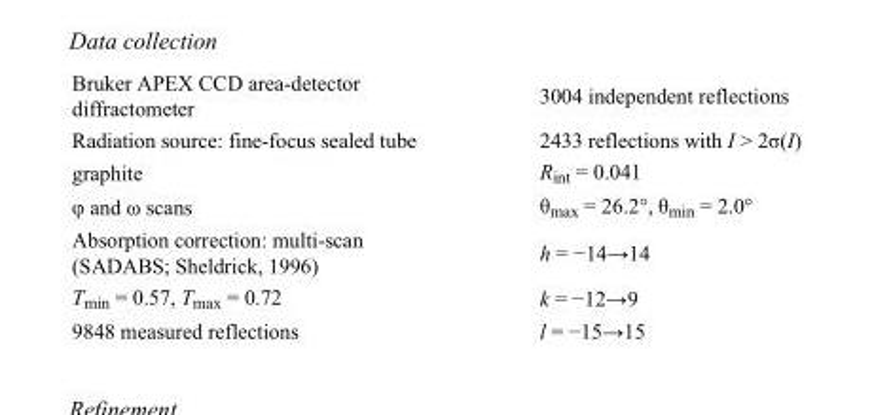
<table><tbody><tr><td>Bruker APEX CCD area-detector diffractometer</td><td>3004 independent reflections</td></tr><tr><td>Radiation source: fine-focus sealed tube</td><td>2433 reflections with I &gt; 2σ(I)</td></tr><tr><td>graphite</td><td>R<sub>int</sub> = 0.041</td></tr><tr><td>φ and ω scans</td><td>θ<sub>max</sub> = 26.2°, θ<sub>min</sub> = 2.0°</td></tr><tr><td>Absorption correction: multi-scan (SADABS; Sheldrick, 1996)</td><td>h = −14→14</td></tr><tr><td>T<sub>min</sub> = 0.57, T<sub>max</sub> = 0.72</td><td>k = −12→9</td></tr><tr><td>9848 measured reflections</td><td>l = −15→15</td></tr></tbody></table>